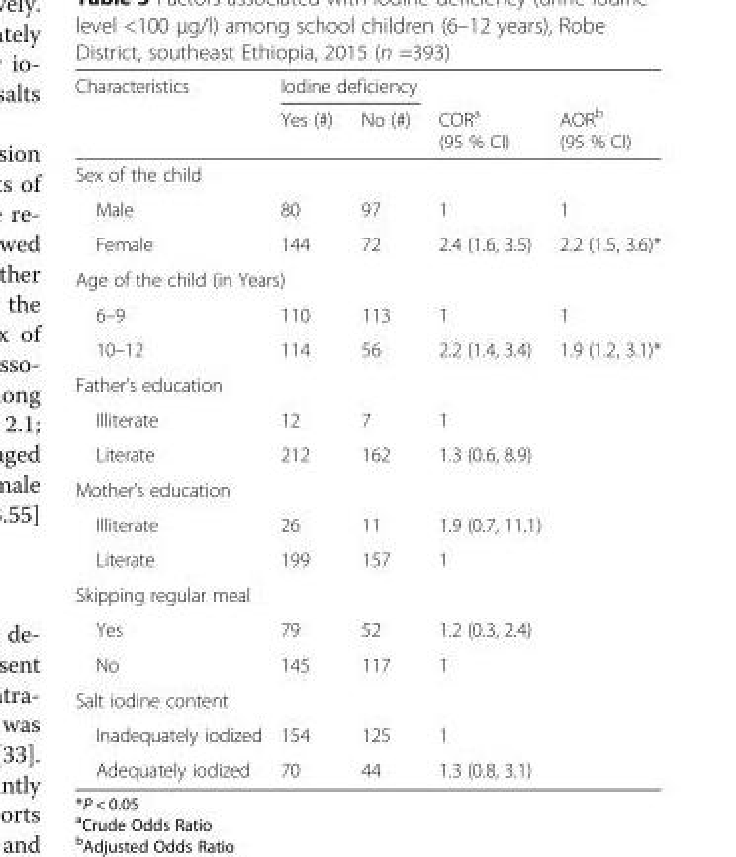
<table><thead><tr><td rowspan="2">Characteristics</td><td colspan="2">Iodine deficiency</td><td rowspan="2">COR<sup>a</sup> (95 % CI)</td><td rowspan="2">AOR<sup>b</sup> (95 % CI)</td></tr><tr><td>Yes (#)</td><td>No (#)</td></tr></thead><tbody><tr><td colspan="5">Sex of the child</td></tr><tr><td>Male</td><td>80</td><td>97</td><td>1</td><td>1</td></tr><tr><td>Female</td><td>144</td><td>72</td><td>2.4 (1.6, 3.5)</td><td>2.2 (1.5, 3.6)*</td></tr><tr><td colspan="5">Age of the child (in Years)</td></tr><tr><td>6–9</td><td>110</td><td>113</td><td>1</td><td>1</td></tr><tr><td>10–12</td><td>114</td><td>56</td><td>2.2 (1.4, 3.4)</td><td>1.9 (1.2, 3.1)*</td></tr><tr><td colspan="5">Father’s education</td></tr><tr><td>Illiterate</td><td>12</td><td>7</td><td>1</td><td></td></tr><tr><td>Literate</td><td>212</td><td>162</td><td>1.3 (0.6, 8.9)</td><td></td></tr><tr><td colspan="5">Mother’s education</td></tr><tr><td>Illiterate</td><td>26</td><td>11</td><td>1.9 (0.7, 11.1)</td><td></td></tr><tr><td>Literate</td><td>199</td><td>157</td><td>1</td><td></td></tr><tr><td colspan="5">Skipping regular meal</td></tr><tr><td>Yes</td><td>79</td><td>52</td><td>1.2 (0.3, 2.4)</td><td></td></tr><tr><td>No</td><td>145</td><td>117</td><td>1</td><td></td></tr><tr><td colspan="5">Salt iodine content</td></tr><tr><td>Inadequately iodized</td><td>154</td><td>125</td><td>1</td><td></td></tr><tr><td>Adequately iodized</td><td>70</td><td>44</td><td>1.3 (0.8, 3.1)</td><td></td></tr></tbody></table>